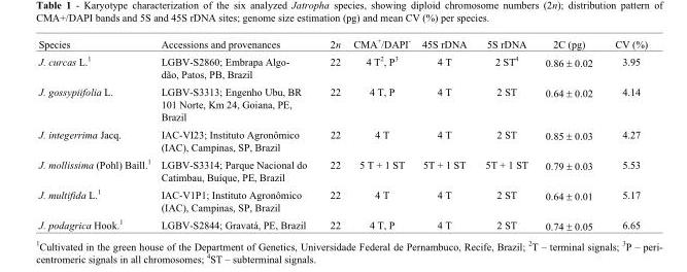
<table><thead><tr><td>Species</td><td>Accessions and provenances</td><td>2n</td><td>CMA<sup>+</sup>/DAPI<sup>-</sup></td><td>45S rDNA</td><td>5S rDNA</td><td>2C (pg)</td><td>CV (%)</td></tr></thead><tbody><tr><td>J. curcas L.<sup>1</sup></td><td>LGBV-S2860; Embrapa Algo- dão, Patos, PB, Brazil</td><td>22</td><td>4 T<sup>2</sup>, P<sup>3</sup></td><td>4 T</td><td>2 ST<sup>4</sup></td><td>0.86 ± 0.02</td><td>3.95</td></tr><tr><td>J. gossypiifolia L.</td><td>LGBV-S3313; Engenho Ubu, BR 101 Norte, Km 24, Goiana, PE, Brazil</td><td>22</td><td>4 T, P</td><td>4 T</td><td>2 ST</td><td>0.64 ± 0.02</td><td>4.14</td></tr><tr><td>J. integerrima Jacq.</td><td>IAC-VI23; Instituto Agronômico (IAC), Campinas, SP, Brazil</td><td>22</td><td>4 T</td><td>4 T</td><td>2 ST</td><td>0.85 ± 0.03</td><td>4.27</td></tr><tr><td>J. mollissima (Pohl) Baill.<sup>1</sup></td><td>LGBV-S3314; Parque Nacional do Catimbau, Buíque, PE, Brazil</td><td>22</td><td>5 T + 1 ST</td><td>5T + 1 ST</td><td>5T + 1 ST</td><td>0.79 ± 0.03</td><td>5.53</td></tr><tr><td>J. multifida L.<sup>1</sup></td><td>IAC-V1P1; Instituto Agronômico (IAC), Campinas, SP, Brazil</td><td>22</td><td>4 T</td><td>4 T</td><td>2 ST</td><td>0.64 ± 0.01</td><td>5.17</td></tr><tr><td>J. podagrica Hook.<sup>1</sup></td><td>LGBV-S2844; Gravatá, PE, Brazil</td><td>22</td><td>4 T, P</td><td>4 T</td><td>2 ST</td><td>0.74 ± 0.05</td><td>6.65</td></tr></tbody></table>